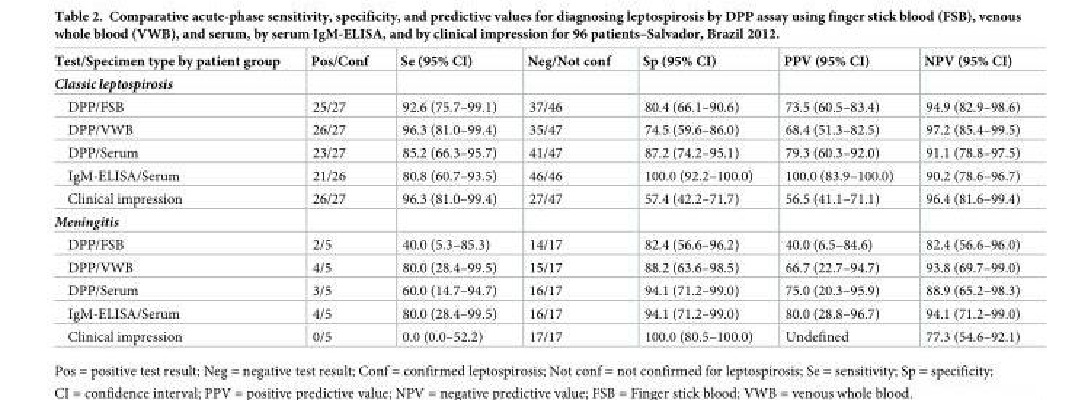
<table><thead><tr><td>Test/Specimen type by patient group</td><td>Pos/Conf</td><td>Se (95% CI)</td><td>Neg/Not conf</td><td>Sp (95% CI)</td><td>PPV (95% CI)</td><td>NPV (95% CI)</td></tr></thead><tbody><tr><td colspan="7">Classic leptospirosis</td></tr><tr><td>DPP/FSB</td><td>25/27</td><td>92.6 (75.7–99.1)</td><td>37/46</td><td>80.4 (66.1–90.6)</td><td>73.5 (60.5–83.4)</td><td>94.9 (82.9–98.6)</td></tr><tr><td>DPP/VWB</td><td>26/27</td><td>96.3 (81.0–99.4)</td><td>35/47</td><td>74.5 (59.6–86.0)</td><td>68.4 (51.3–82.5)</td><td>97.2 (85.4–99.5)</td></tr><tr><td>DPP/Serum</td><td>23/27</td><td>85.2 (66.3–95.7)</td><td>41/47</td><td>87.2 (74.2–95.1)</td><td>79.3 (60.3–92.0)</td><td>91.1 (78.8–97.5)</td></tr><tr><td>IgM-ELISA/Serum</td><td>21/26</td><td>80.8 (60.7–93.5)</td><td>46/46</td><td>100.0 (92.2–100.0)</td><td>100.0 (83.9–100.0)</td><td>90.2 (78.6–96.7)</td></tr><tr><td>Clinical impression</td><td>26/27</td><td>96.3 (81.0–99.4)</td><td>27/47</td><td>57.4 (42.2–71.7)</td><td>56.5 (41.1–71.1)</td><td>96.4 (81.6–99.4)</td></tr><tr><td colspan="7">Meningitis</td></tr><tr><td>DPP/FSB</td><td>2/5</td><td>40.0 (5.3–85.3)</td><td>14/17</td><td>82.4 (56.6–96.2)</td><td>40.0 (6.5–84.6)</td><td>82.4 (56.6–96.0)</td></tr><tr><td>DPP/VWB</td><td>4/5</td><td>80.0 (28.4–99.5)</td><td>15/17</td><td>88.2 (63.6–98.5)</td><td>66.7 (22.7–94.7)</td><td>93.8 (69.7–99.0)</td></tr><tr><td>DPP/Serum</td><td>3/5</td><td>60.0 (14.7–94.7)</td><td>16/17</td><td>94.1 (71.2–99.0)</td><td>75.0 (20.3–95.9)</td><td>88.9 (65.2–98.3)</td></tr><tr><td>IgM-ELISA/Serum</td><td>4/5</td><td>80.0 (28.4–99.5)</td><td>16/17</td><td>94.1 (71.2–99.0)</td><td>80.0 (28.8–96.7)</td><td>94.1 (71.2–99.0)</td></tr><tr><td>Clinical impression</td><td>0/5</td><td>0.0 (0.0–52.2)</td><td>17/17</td><td>100.0 (80.5–100.0)</td><td>Undefined</td><td>77.3 (54.6–92.1)</td></tr></tbody></table>